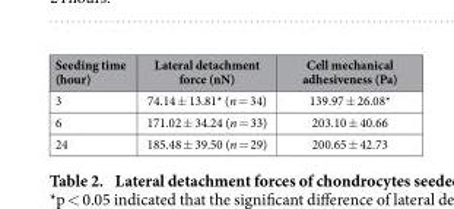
<table><thead><tr><td>Seeding time (hour)</td><td>Lateral detachment force (nN)</td><td>Cell mechanical adhesiveness (Pa)</td></tr></thead><tbody><tr><td>3</td><td>74.14 ± 13.81* (n = 34)</td><td>139.97 ± 26.08*</td></tr><tr><td>6</td><td>171.02 ± 34.24 (n = 33)</td><td>203.10 ± 40.66</td></tr><tr><td>24</td><td>185.48 ± 39.50 (n = 29)</td><td>200.65 ± 42.73</td></tr></tbody></table>